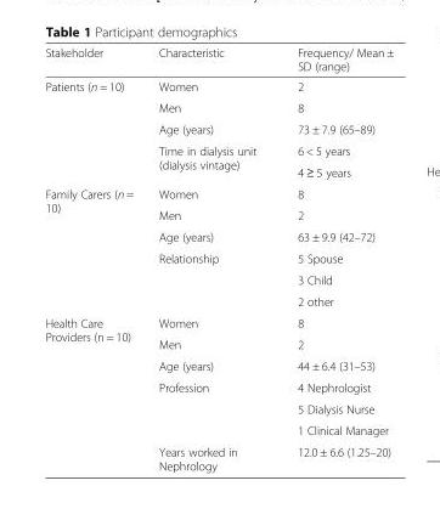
<table><thead><tr><td>Stakeholder</td><td>Characteristic</td><td>Frequency/ Mean ± SD (range)</td></tr></thead><tbody><tr><td rowspan="5">Patients (n = 10)</td><td>Women</td><td>2</td></tr><tr><td>Men</td><td>8</td></tr><tr><td>Age (years)</td><td>73 ± 7.9 (65–89)</td></tr><tr><td rowspan="2">Time in dialysis unit (dialysis vintage)</td><td>6 &lt; 5 years</td></tr><tr><td>4 ≥ 5 years</td></tr><tr><td rowspan="6">Family Carers (n = 10)</td><td>Women</td><td>8</td></tr><tr><td>Men</td><td>2</td></tr><tr><td>Age (years)</td><td>63 ± 9.9 (42–72)</td></tr><tr><td rowspan="3">Relationship</td><td>5 Spouse</td></tr><tr><td>3 Child</td></tr><tr><td>2 other</td></tr><tr><td rowspan="7">Health Care Providers (n = 10)</td><td>Women</td><td>8</td></tr><tr><td>Men</td><td>2</td></tr><tr><td>Age (years)</td><td>44 ± 6.4 (31–53)</td></tr><tr><td rowspan="3">Profession</td><td>4 Nephrologist</td></tr><tr><td>5 Dialysis Nurse</td></tr><tr><td>1 Clinical Manager</td></tr><tr><td>Years worked in Nephrology</td><td>12.0 ± 6.6 (1.25–20)</td></tr></tbody></table>